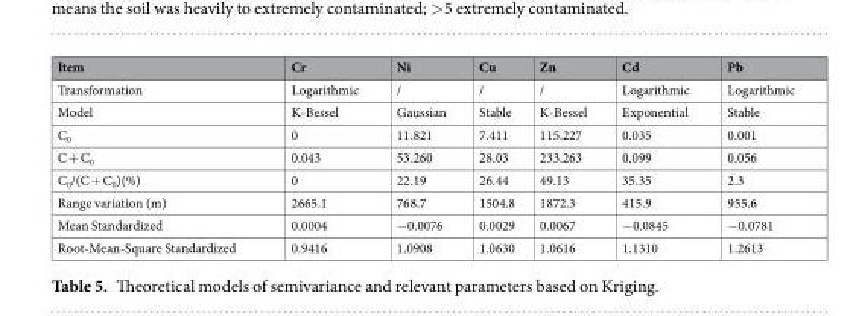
<table><thead><tr><td>Item</td><td>Cr</td><td>Ni</td><td>Cu</td><td>Zn</td><td>Cd</td><td>Pb</td></tr></thead><tbody><tr><td>Transformation</td><td>Logarithmic</td><td>/</td><td>/</td><td>/</td><td>Logarithmic</td><td>Logarithmic</td></tr><tr><td>Model</td><td>K-Bessel</td><td>Gaussian</td><td>Stable</td><td>K-Bessel</td><td>Exponential</td><td>Stable</td></tr><tr><td>C<sub>0</sub></td><td>0</td><td>11.821</td><td>7.411</td><td>115.227</td><td>0.035</td><td>0.001</td></tr><tr><td>C + C<sub>0</sub></td><td>0.043</td><td>53.260</td><td>28.03</td><td>233.263</td><td>0.099</td><td>0.056</td></tr><tr><td>C<sub>0</sub>/(C + C<sub>0</sub>)(%)</td><td>0</td><td>22.19</td><td>26.44</td><td>49.13</td><td>35.35</td><td>2.3</td></tr><tr><td>Range variation (m)</td><td>2665.1</td><td>768.7</td><td>1504.8</td><td>1872.3</td><td>415.9</td><td>955.6</td></tr><tr><td>Mean Standardized</td><td>0.0004</td><td>−0.0076</td><td>0.0029</td><td>0.0067</td><td>−0.0845</td><td>−0.0781</td></tr><tr><td>Root-Mean-Square Standardized</td><td>0.9416</td><td>1.0908</td><td>1.0630</td><td>1.0616</td><td>1.1310</td><td>1.2613</td></tr></tbody></table>